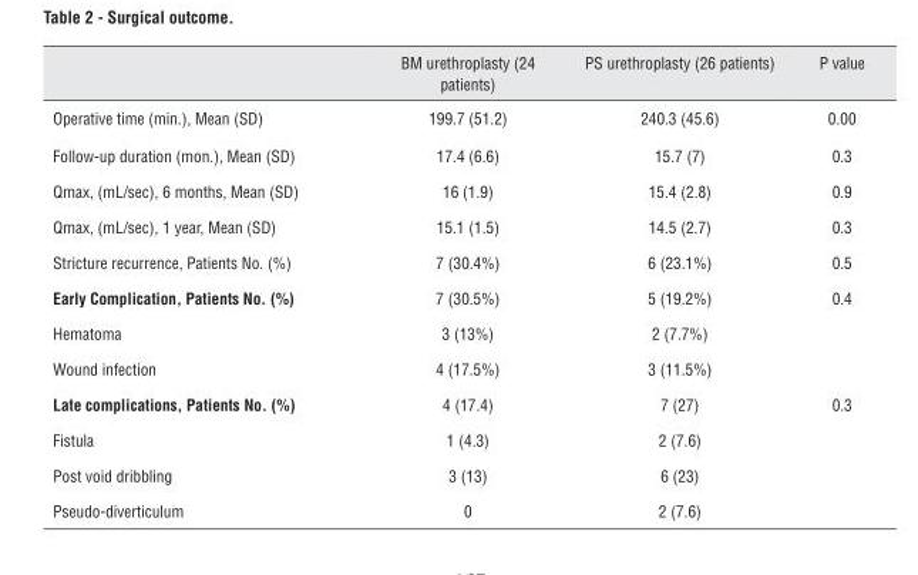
<table><thead><tr><td></td><td>BM urethroplasty (24 patients)</td><td>PS urethroplasty (26 patients)</td><td>P value</td></tr></thead><tbody><tr><td>Operative time (min.), Mean (SD)</td><td>199.7 (51.2)</td><td>240.3 (45.6)</td><td>0.00</td></tr><tr><td>Follow-up duration (mon.), Mean (SD)</td><td>17.4 (6.6)</td><td>15.7 (7)</td><td>0.3</td></tr><tr><td>Qmax, (mL/sec), 6 months, Mean (SD)</td><td>16 (1.9)</td><td>15.4 (2.8)</td><td>0.9</td></tr><tr><td>Qmax, (mL/sec), 1 year, Mean (SD)</td><td>15.1 (1.5)</td><td>14.5 (2.7)</td><td>0.3</td></tr><tr><td>Stricture recurrence, Patients No. (%)</td><td>7 (30.4%)</td><td>6 (23.1%)</td><td>0.5</td></tr><tr><td>Early Complication, Patients no. (%)</td><td>7 (30.5%)</td><td>5 (19.2%)</td><td>0.4</td></tr><tr><td>Hematoma</td><td>3 (13%)</td><td>2 (7.7%)</td><td></td></tr><tr><td>Wound infection</td><td>4 (17.5%)</td><td>3 (11.5%)</td><td></td></tr><tr><td>Late complications, Patients no. (%)</td><td>4 (17.4)</td><td>7 (27)</td><td>0.3</td></tr><tr><td>Fistula</td><td>1 (4.3)</td><td>2 (7.6)</td><td></td></tr><tr><td>Post void dribbling</td><td>3 (13)</td><td>6 (23)</td><td></td></tr><tr><td>Pseudo-diverticulum</td><td>0</td><td>2 (7.6)</td><td></td></tr></tbody></table>